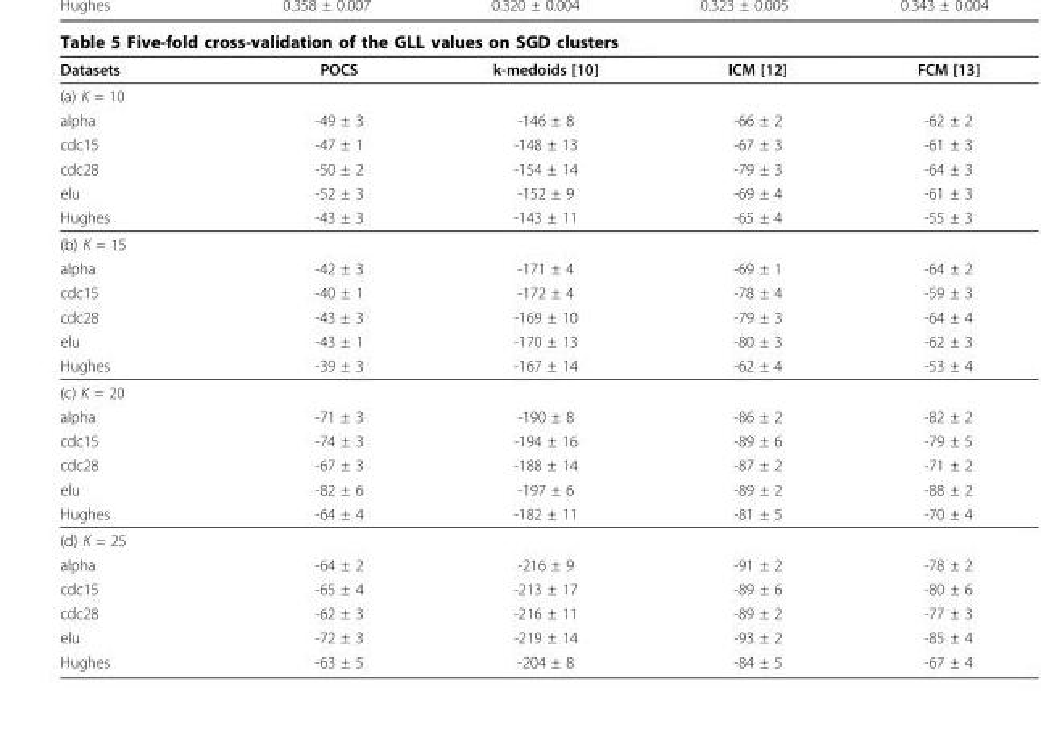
<table><thead><tr><td>Datasets</td><td>POCS</td><td>k-medoids [10]</td><td>ICM [12]</td><td>FCM [13]</td></tr></thead><tbody><tr><td colspan="5">(a) K = 10</td></tr><tr><td>alpha</td><td>-49 ± 3</td><td>-146 ± 8</td><td>-66 ± 2</td><td>-62 ± 2</td></tr><tr><td>cdc15</td><td>-47 ± 1</td><td>-148 ± 13</td><td>-67 ± 3</td><td>-61 ± 3</td></tr><tr><td>cdc28</td><td>-50 ± 2</td><td>-154 ± 14</td><td>-79 ± 3</td><td>-64 ± 3</td></tr><tr><td>elu</td><td>-52 ± 3</td><td>-152 ± 9</td><td>-69 ± 4</td><td>-61 ± 3</td></tr><tr><td>Hughes</td><td>-43 ± 3</td><td>-143 ± 11</td><td>-65 ± 4</td><td>-55 ± 3</td></tr><tr><td colspan="5">(b) K = 15</td></tr><tr><td>alpha</td><td>-42 ± 3</td><td>-171 ± 4</td><td>-69 ± 1</td><td>-64 ± 2</td></tr><tr><td>cdc15</td><td>-40 ± 1</td><td>-172 ± 4</td><td>-78 ± 4</td><td>-59 ± 3</td></tr><tr><td>cdc28</td><td>-43 ± 3</td><td>-169 ± 10</td><td>-79 ± 3</td><td>-64 ± 4</td></tr><tr><td>elu</td><td>-43 ± 1</td><td>-170 ± 13</td><td>-80 ± 3</td><td>-62 ± 3</td></tr><tr><td>Hughes</td><td>-39 ± 3</td><td>-167 ± 14</td><td>-62 ± 4</td><td>-53 ± 4</td></tr><tr><td colspan="5">(c) K = 20</td></tr><tr><td>alpha</td><td>-71 ± 3</td><td>-190 ± 8</td><td>-86 ± 2</td><td>-82 ± 2</td></tr><tr><td>cdc15</td><td>-74 ± 3</td><td>-194 ± 16</td><td>-89 ± 6</td><td>-79 ± 5</td></tr><tr><td>cdc28</td><td>-67 ± 3</td><td>-188 ± 14</td><td>-87 ± 2</td><td>-71 ± 2</td></tr><tr><td>elu</td><td>-82 ± 6</td><td>-197 ± 6</td><td>-89 ± 2</td><td>-88 ± 2</td></tr><tr><td>Hughes</td><td>-64 ± 4</td><td>-182 ± 11</td><td>-81 ± 5</td><td>-70 ± 4</td></tr><tr><td colspan="5">(d) K = 25</td></tr><tr><td>alpha</td><td>-64 ± 2</td><td>-216 ± 9</td><td>-91 ± 2</td><td>-78 ± 2</td></tr><tr><td>cdc15</td><td>-65 ± 4</td><td>-213 ± 17</td><td>-89 ± 6</td><td>-80 ± 6</td></tr><tr><td>cdc28</td><td>-62 ± 3</td><td>-216 ± 11</td><td>-89 ± 2</td><td>-77 ± 3</td></tr><tr><td>elu</td><td>-72 ± 3</td><td>-219 ± 14</td><td>-93 ± 2</td><td>-85 ± 4</td></tr><tr><td>Hughes</td><td>-63 ± 5</td><td>-204 ± 8</td><td>-84 ± 5</td><td>-67 ± 4</td></tr></tbody></table>